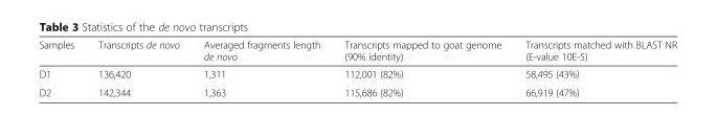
<table><thead><tr><td>Samples</td><td>Transcripts de novo</td><td>Averaged fragments length de novo</td><td>Transcripts mapped to goat genome (90% identity)</td><td>Transcripts matched with BLAST NR (E-value 10E-5)</td></tr></thead><tbody><tr><td>D1</td><td>136,420</td><td>1,311</td><td>112,001 (82%)</td><td>58,495 (43%)</td></tr><tr><td>D2</td><td>142,344</td><td>1,363</td><td>115,686 (82%)</td><td>66,919 (47%)</td></tr></tbody></table>